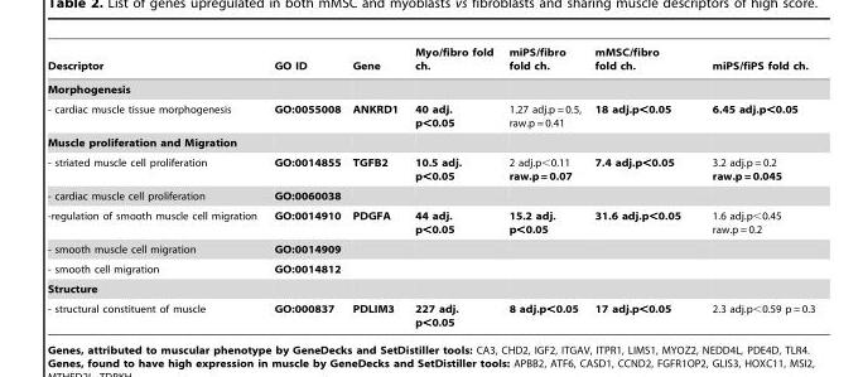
<table><thead><tr><td>Descriptor</td><td>GO ID</td><td>Gene</td><td>Myo/fibro fold ch.</td><td>miPS/fibro fold ch.</td><td>mMSC/fibro fold ch.</td><td>miPS/fiPS fold ch.</td></tr></thead><tbody><tr><td colspan="7">Morphogenesis</td></tr><tr><td>- cardiac muscle tissue morphogenesis</td><td>GO:0055008</td><td>ANKRD1</td><td>40 adj. p&lt;0.05</td><td>1.27 adj.p = 0.5, raw.p = 0.41</td><td>18 adj.p&lt;0.05</td><td>6.45 adj.p&lt;0.05</td></tr><tr><td colspan="7">Muscle proliferation and Migration</td></tr><tr><td>- striated muscle cell proliferation</td><td>GO:0014855</td><td>TGFB2</td><td>10.5 adj. p&lt;0.05</td><td>2 adj.p&lt;0.11 raw.p = 0.07</td><td>7.4 adj.p&lt;0.05</td><td>3.2 adj.p = 0.2 raw.p = 0.045</td></tr><tr><td>- cardiac muscle cell proliferation</td><td>GO:0060038</td><td></td><td></td><td></td><td></td><td></td></tr><tr><td>-regulation of smooth muscle cell migration</td><td>GO:0014910</td><td>PDGFA</td><td>44 adj. p&lt;0.05</td><td>15.2 adj. p&lt;0.05</td><td>31.6 adj.p&lt;0.05</td><td>1.6 adj.p&lt;0.45 raw.p = 0.2</td></tr><tr><td>- smooth muscle cell migration</td><td>GO:0014909</td><td></td><td></td><td></td><td></td><td></td></tr><tr><td>- smooth cell migration</td><td>GO:0014812</td><td></td><td></td><td></td><td></td><td></td></tr><tr><td colspan="7">Structure</td></tr><tr><td>- structural constituent of muscle</td><td>GO:000837</td><td>PDLIM3</td><td>227 adj. p&lt;0.05</td><td>8 adj.p&lt;0.05</td><td>17 adj.p&lt;0.05</td><td>2.3 adj.p&lt;0.59 p = 0.3</td></tr></tbody></table>